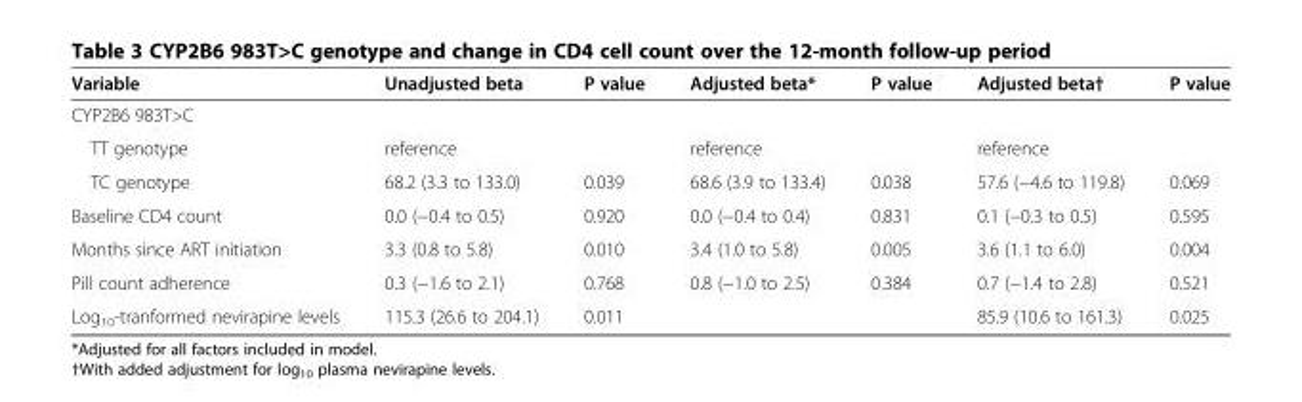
<table><thead><tr><td>Variable</td><td>Unadjusted beta</td><td>P value</td><td>Adjusted beta*</td><td>P value</td><td>Adjusted beta†</td><td>P value</td></tr></thead><tbody><tr><td colspan="7">CYP2B6 983T&gt;C</td></tr><tr><td>TT genotype</td><td>reference</td><td></td><td>reference</td><td></td><td>reference</td><td></td></tr><tr><td>TC genotype</td><td>68.2 (3.3 to 133.0)</td><td>0.039</td><td>68.6 (3.9 to 133.4)</td><td>0.038</td><td>57.6 (−4.6 to 119.8)</td><td>0.069</td></tr><tr><td>Baseline CD4 count</td><td>0.0 (−0.4 to 0.5)</td><td>0.920</td><td>0.0 (−0.4 to 0.4)</td><td>0.831</td><td>0.1 (−0.3 to 0.5)</td><td>0.595</td></tr><tr><td>Months since ART initiation</td><td>3.3 (0.8 to 5.8)</td><td>0.010</td><td>3.4 (1.0 to 5.8)</td><td>0.005</td><td>3.6 (1.1 to 6.0)</td><td>0.004</td></tr><tr><td>Pill count adherence</td><td>0.3 (−1.6 to 2.1)</td><td>0.768</td><td>0.8 (−1.0 to 2.5)</td><td>0.384</td><td>0.7 (−1.4 to 2.8)</td><td>0.521</td></tr><tr><td>Log<sub>10</sub>-tranformed nevirapine levels</td><td>115.3 (26.6 to 204.1)</td><td>0.011</td><td></td><td></td><td>85.9 (10.6 to 161.3)</td><td>0.025</td></tr></tbody></table>